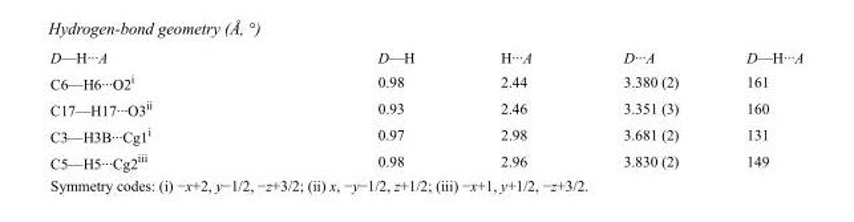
<table><tbody><tr><td>D—H···A</td><td>D—H</td><td>H···A</td><td>D···A</td><td>D—H···A</td></tr><tr><td>C6—H6···O2<sup>i</sup></td><td>0.98</td><td>2.44</td><td>3.380 (2)</td><td>161</td></tr><tr><td>C17—H17···O3<sup>ii</sup></td><td>0.93</td><td>2.46</td><td>3.351 (3)</td><td>160</td></tr><tr><td>C3—H3B···Cg1<sup>i</sup></td><td>0.97</td><td>2.98</td><td>3.681 (2)</td><td>131</td></tr><tr><td>C5—H5···Cg2<sup>iii</sup></td><td>0.98</td><td>2.96</td><td>3.830 (2)</td><td>149</td></tr></tbody></table>